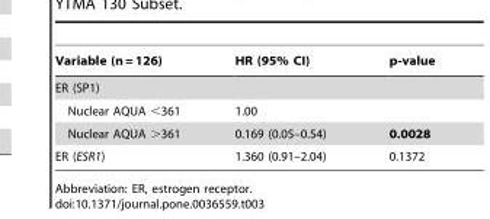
<table><thead><tr><td>Variable (n = 126)</td><td>HR (95% CI)</td><td>p-value</td></tr></thead><tbody><tr><td colspan="3">ER (SP1)</td></tr><tr><td>Nuclear AQUA &lt;361</td><td>1.00</td><td></td></tr><tr><td>Nuclear AQUA &gt;361</td><td>0.169 (0.05–0.54)</td><td>0.0028</td></tr><tr><td>ER (ESR1)</td><td>1.360 (0.91–2.04)</td><td>0.1372</td></tr></tbody></table>